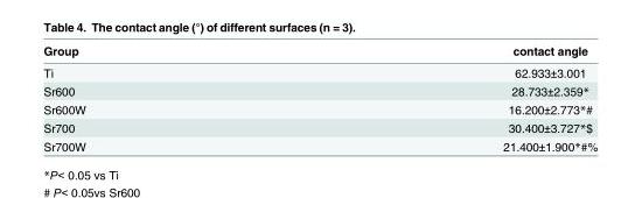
<table><thead><tr><td>Group</td><td>contact angle</td></tr></thead><tbody><tr><td>Ti</td><td>62.933±3.001</td></tr><tr><td>Sr600</td><td>28.733±2.359*</td></tr><tr><td>Sr600W</td><td>16.200±2.773*#</td></tr><tr><td>Sr700</td><td>30.400±3.727*$</td></tr><tr><td>Sr700W</td><td>21.400±1.900*#%</td></tr></tbody></table>